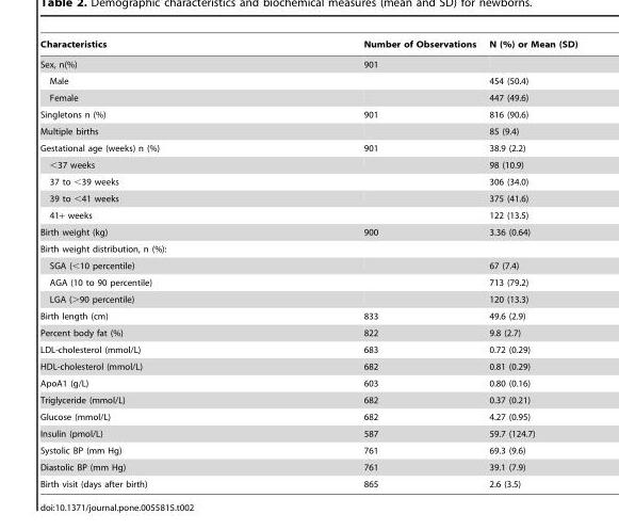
<table><thead><tr><td>Characteristics</td><td>Number of Observations</td><td>N (%) or Mean (SD)</td></tr></thead><tbody><tr><td>Sex, n(%)</td><td>901</td><td></td></tr><tr><td>Male</td><td></td><td>454 (50.4)</td></tr><tr><td>Female</td><td></td><td>447 (49.6)</td></tr><tr><td>Singletons n (%)</td><td>901</td><td>816 (90.6)</td></tr><tr><td>Multiple births</td><td></td><td>85 (9.4)</td></tr><tr><td>Gestational age (weeks) n (%)</td><td>901</td><td>38.9 (2.2)</td></tr><tr><td>&lt;37 weeks</td><td></td><td>98 (10.9)</td></tr><tr><td>37 to &lt;39 weeks</td><td></td><td>306 (34.0)</td></tr><tr><td>39 to &lt;41 weeks</td><td></td><td>375 (41.6)</td></tr><tr><td>41+ weeks</td><td></td><td>122 (13.5)</td></tr><tr><td>Birth weight (kg)</td><td>900</td><td>3.36 (0.64)</td></tr><tr><td colspan="3">Birth weight distribution, n (%):</td></tr><tr><td>SGA (&lt;10 percentile)</td><td></td><td>67 (7.4)</td></tr><tr><td>AGA (10 to 90 percentile)</td><td></td><td>713 (79.2)</td></tr><tr><td>LGA (&gt;90 percentile)</td><td></td><td>120 (13.3)</td></tr><tr><td>Birth length (cm)</td><td>833</td><td>49.6 (2.9)</td></tr><tr><td>Percent body fat (%)</td><td>822</td><td>9.8 (2.7)</td></tr><tr><td>LDL-cholesterol (mmol/L)</td><td>683</td><td>0.72 (0.29)</td></tr><tr><td>HDL-cholesterol (mmol/L)</td><td>682</td><td>0.81 (0.29)</td></tr><tr><td>ApoA1 (g/L)</td><td>603</td><td>0.80 (0.16)</td></tr><tr><td>Triglyceride (mmol/L)</td><td>682</td><td>0.37 (0.21)</td></tr><tr><td>Glucose (mmol/L)</td><td>682</td><td>4.27 (0.95)</td></tr><tr><td>Insulin (pmol/L)</td><td>587</td><td>59.7 (124.7)</td></tr><tr><td>Systolic BP (mm Hg)</td><td>761</td><td>69.3 (9.6)</td></tr><tr><td>Diastolic BP (mm Hg)</td><td>761</td><td>39.1 (7.9)</td></tr><tr><td>Birth visit (days after birth)</td><td>865</td><td>2.6 (3.5)</td></tr></tbody></table>